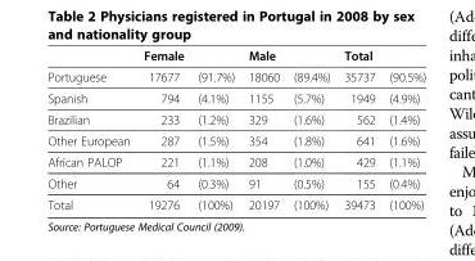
<table><thead><tr><td></td><td>Female</td><td></td><td>Male</td><td></td><td>Total</td><td></td></tr></thead><tbody><tr><td>Portuguese</td><td>17677</td><td>(91.7%)</td><td>18060</td><td>(89.4%)</td><td>35737</td><td>(90.5%)</td></tr><tr><td>Spanish</td><td>794</td><td>(4.1%)</td><td>1155</td><td>(5.7%)</td><td>1949</td><td>(4.9%)</td></tr><tr><td>Brazilian</td><td>233</td><td>(1.2%)</td><td>329</td><td>(1.6%)</td><td>562</td><td>(1.4%)</td></tr><tr><td>Other European</td><td>287</td><td>(1.5%)</td><td>354</td><td>(1.8%)</td><td>641</td><td>(1.6%)</td></tr><tr><td>African PALOP</td><td>221</td><td>(1.1%)</td><td>208</td><td>(1.0%)</td><td>429</td><td>(1.1%)</td></tr><tr><td>Other</td><td>64</td><td>(0.3%)</td><td>91</td><td>(0.5%)</td><td>155</td><td>(0.4%)</td></tr><tr><td>Total</td><td>19276</td><td>(100%)</td><td>20197</td><td>(100%)</td><td>39473</td><td>(100%)</td></tr></tbody></table>